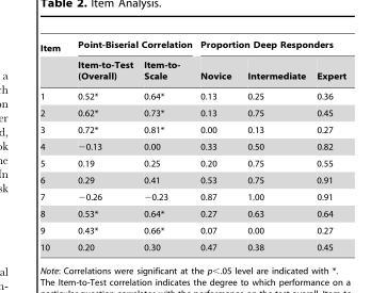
<table><thead><tr><td rowspan="2">Item</td><td colspan="2">Point-Biserial Correlation</td><td colspan="3">Proportion Deep Responders</td></tr><tr><td>Item-to-Test (Overall)</td><td>Item-to- Scale</td><td>Novice</td><td>Intermediate</td><td>Expert</td></tr></thead><tbody><tr><td>1</td><td>0.52*</td><td>0.64*</td><td>0.13</td><td>0.25</td><td>0.36</td></tr><tr><td>2</td><td>0.62*</td><td>0.73*</td><td>0.13</td><td>0.75</td><td>0.45</td></tr><tr><td>3</td><td>0.72*</td><td>0.81*</td><td>0.00</td><td>0.13</td><td>0.27</td></tr><tr><td>4</td><td>−0.13</td><td>0.00</td><td>0.33</td><td>0.50</td><td>0.82</td></tr><tr><td>5</td><td>0.19</td><td>0.25</td><td>0.20</td><td>0.75</td><td>0.55</td></tr><tr><td>6</td><td>0.29</td><td>0.41</td><td>0.53</td><td>0.75</td><td>0.91</td></tr><tr><td>7</td><td>−0.26</td><td>−0.23</td><td>0.87</td><td>1.00</td><td>0.91</td></tr><tr><td>8</td><td>0.53*</td><td>0.64*</td><td>0.27</td><td>0.63</td><td>0.64</td></tr><tr><td>9</td><td>0.43*</td><td>0.66*</td><td>0.07</td><td>0.00</td><td>0.27</td></tr><tr><td>10</td><td>0.20</td><td>0.30</td><td>0.47</td><td>0.38</td><td>0.45</td></tr></tbody></table>